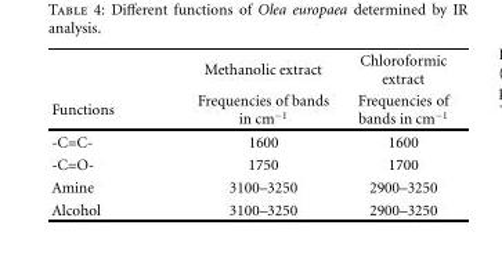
<table><thead><tr><td rowspan="2">Functions</td><td rowspan="2">Methanolic extract Frequencies of bands in cm<sup>−1</sup></td><td rowspan="2">Chloroformic extract Frequencies of bands in cm<sup>−1</sup></td></tr><tr></tr></thead><tbody><tr><td>-C=C-</td><td>1600</td><td>1600</td></tr><tr><td>-C=O-</td><td>1750</td><td>1700</td></tr><tr><td>Amine</td><td>3100–3250</td><td>2900–3250</td></tr><tr><td>Alcohol</td><td>3100–3250</td><td>2900–3250</td></tr></tbody></table>